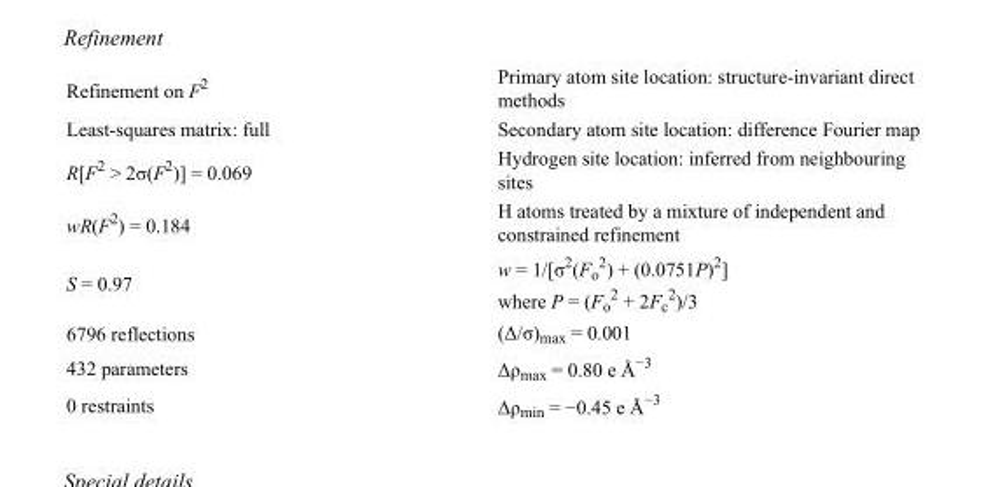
<table><tbody><tr><td>Refinement on F<sup>2</sup></td><td>Primary atom site location: structure-invariant direct methods</td></tr><tr><td>Least-squares matrix: full</td><td>Secondary atom site location: difference Fourier map</td></tr><tr><td>R[F<sup>2</sup> &gt; 2σ(F<sup>2</sup>)] = 0.069</td><td>Hydrogen site location: inferred from neighbouring sites</td></tr><tr><td>wR(F<sup>2</sup>) = 0.184</td><td>H atoms treated by a mixture of independent and constrained refinement</td></tr><tr><td>S = 0.97</td><td>w = 1/[σ<sup>2</sup>(F<sub>o</sub> <sup>2</sup>) + (0.0751P)<sup>2</sup>] where P = (F<sub>o</sub> <sup>2</sup> + 2F<sub>c</sub> <sup>2</sup>)/3</td></tr><tr><td>6796 reflections</td><td>(Δ/σ)<sub>max</sub> = 0.001</td></tr><tr><td>432 parameters</td><td>Δρ<sub>max</sub> = 0.80 e Å<sup>−3</sup></td></tr><tr><td>0 restraints</td><td>Δρ<sub>min</sub> = −0.45 e Å<sup>−3</sup></td></tr></tbody></table>